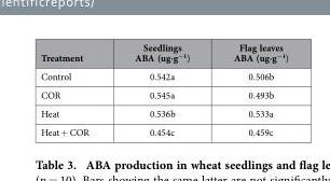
<table><thead><tr><td>Treatment</td><td>Seedlings ABA (ug·g<sup>−1</sup>)</td><td>Flag leaves ABA (ug·g<sup>−1</sup>)</td></tr></thead><tbody><tr><td>Control</td><td>0.542a</td><td>0.506b</td></tr><tr><td>COR</td><td>0.545a</td><td>0.493b</td></tr><tr><td>Heat</td><td>0.536b</td><td>0.533a</td></tr><tr><td>Heat + COR</td><td>0.454c</td><td>0.459c</td></tr></tbody></table>